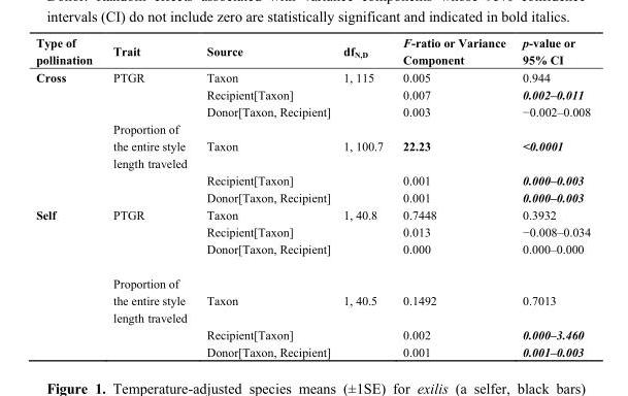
<table><thead><tr><td>Type of pollination</td><td>Trait</td><td>Source</td><td>df<sub>N,D</sub></td><td>F-ratio or Variance Component</td><td>p-value or 95% CI</td></tr></thead><tbody><tr><td rowspan="6">Cross</td><td>PTGR</td><td>Taxon</td><td>1, 115</td><td>0.005</td><td>0.944</td></tr><tr><td></td><td>Recipient[Taxon]</td><td></td><td>0.007</td><td>0.002–0.011</td></tr><tr><td></td><td colspan="2">Donor[Taxon, Recipient]</td><td>0.003</td><td>−0.002–0.008</td></tr><tr><td>Proportion of the entire style length traveled</td><td>Taxon</td><td>1, 100.7</td><td>22.23</td><td>&lt;0.0001</td></tr><tr><td></td><td>Recipient[Taxon]</td><td></td><td>0.001</td><td>0.000–0.003</td></tr><tr><td></td><td colspan="2">Donor[Taxon, Recipient]</td><td>0.001</td><td>0.000–0.003</td></tr><tr><td rowspan="6">Self</td><td>PTGR</td><td>Taxon</td><td>1, 40.8</td><td>0.7448</td><td>0.3932</td></tr><tr><td></td><td>Recipient[Taxon]</td><td></td><td>0.013</td><td>−0.008–0.034</td></tr><tr><td></td><td colspan="2">Donor[Taxon, Recipient]</td><td>0.000</td><td>0.000–0.000</td></tr><tr><td>Proportion of the entire style length traveled</td><td>Taxon</td><td>1, 40.5</td><td>0.1492</td><td>0.7013</td></tr><tr><td></td><td>Recipient[Taxon]</td><td></td><td>0.002</td><td>0.000–3.460</td></tr><tr><td></td><td colspan="2">Donor[Taxon, Recipient]</td><td>0.001</td><td>0.001–0.003</td></tr></tbody></table>